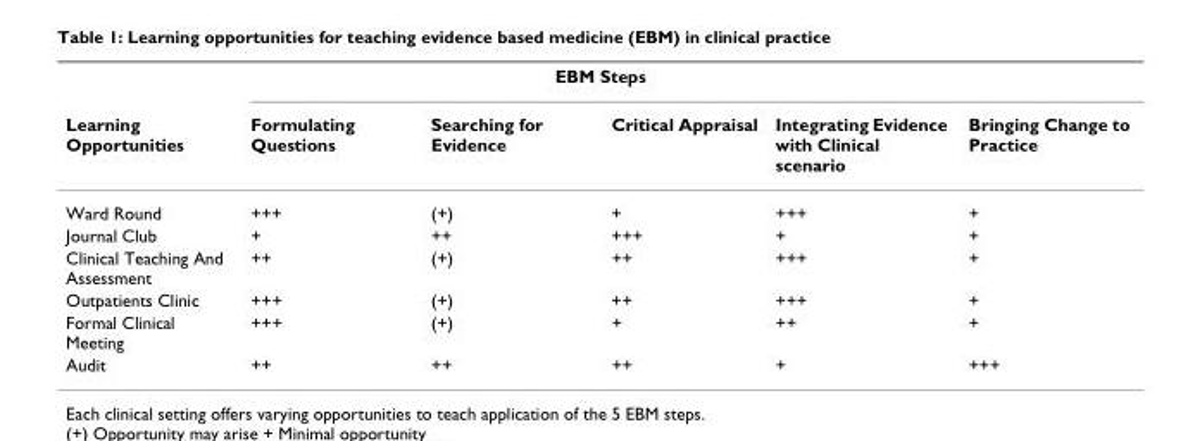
<table><thead><tr><td colspan="6">EBM Steps</td></tr><tr><td>Learning Opportunities</td><td>Formulating Questions</td><td>Searching for Evidence</td><td>Critical Appraisal</td><td>Integrating Evidence with Clinical scenario</td><td>Bringing Change to Practice</td></tr></thead><tbody><tr><td>Ward Round</td><td>+++</td><td>(+)</td><td>+</td><td>+++</td><td>+</td></tr><tr><td>Journal Club</td><td>+</td><td>++</td><td>+++</td><td>+</td><td>+</td></tr><tr><td>Clinical Teaching And Assessment</td><td>++</td><td>(+)</td><td>++</td><td>+++</td><td>+</td></tr><tr><td>Outpatients Clinic</td><td>+++</td><td>(+)</td><td>++</td><td>+++</td><td>+</td></tr><tr><td>Formal Clinical Meeting</td><td>+++</td><td>(+)</td><td>+</td><td>++</td><td>+</td></tr><tr><td>Audit</td><td>++</td><td>++</td><td>++</td><td>+</td><td>+++</td></tr></tbody></table>